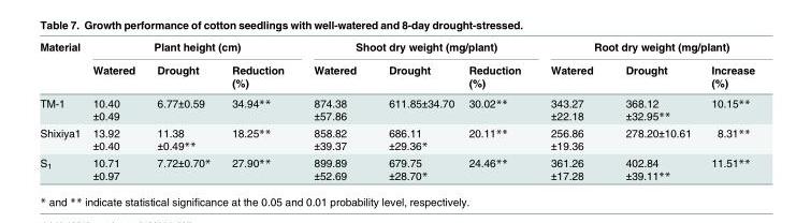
<table><thead><tr><td rowspan="2">Material</td><td colspan="3">Plant height (cm)</td><td colspan="3">Shoot dry weight (mg/plant)</td><td colspan="3">Root dry weight (mg/plant)</td></tr><tr><td>Watered</td><td>Drought</td><td>Reduction (%)</td><td>Watered</td><td>Drought</td><td>Reduction (%)</td><td>Watered</td><td>Drought</td><td>Increase (%)</td></tr></thead><tbody><tr><td>TM-1</td><td>10.40 ±0.49</td><td>6.77±0.59</td><td>34.94**</td><td>874.38 ±57.86</td><td>611.85±34.70</td><td>30.02**</td><td>343.27 ±22.18</td><td>368.12 ±32.95**</td><td>10.15**</td></tr><tr><td>Shixiya1</td><td>13.92 ±0.40</td><td>11.38 ±0.49**</td><td>18.25**</td><td>858.82 ±39.37</td><td>686.11 ±29.36*</td><td>20.11**</td><td>256.86 ±19.36</td><td>278.20±10.61</td><td>8.31**</td></tr><tr><td>S<sub>1</sub></td><td>10.71 ±0.97</td><td>7.72±0.70*</td><td>27.90**</td><td>899.89 ±52.69</td><td>679.75 ±28.70*</td><td>24.46**</td><td>361.26 ±17.28</td><td>402.84 ±39.11**</td><td>11.51**</td></tr></tbody></table>